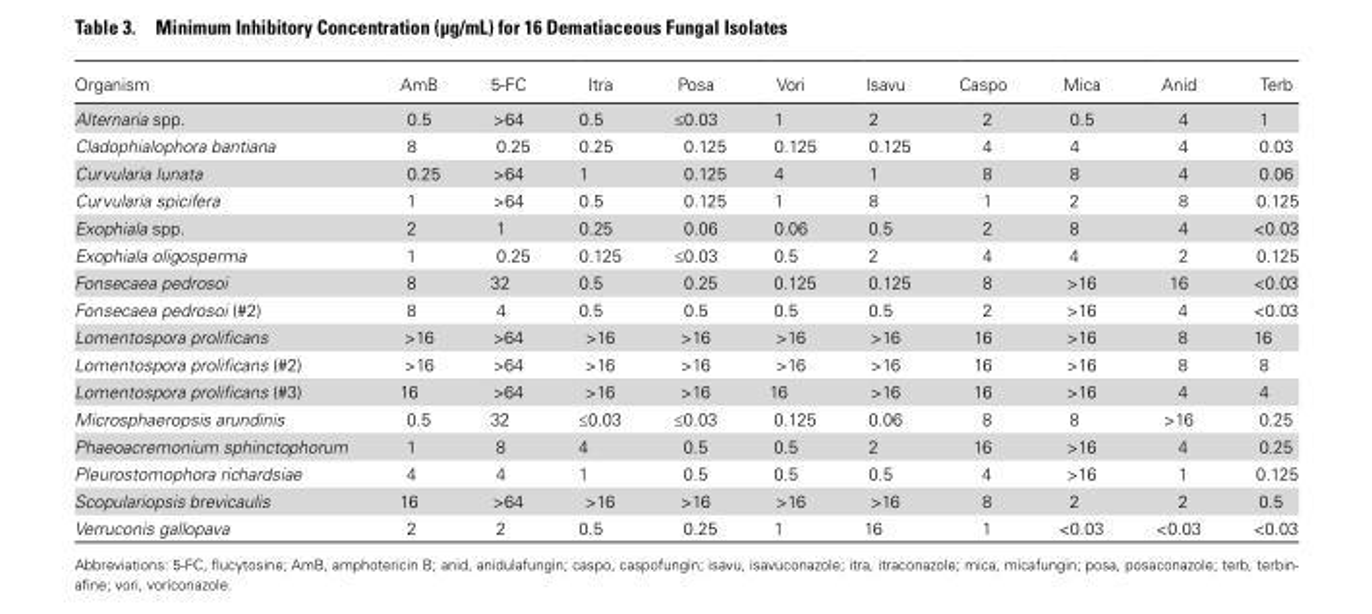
<table><thead><tr><td>Organism</td><td>AmB</td><td>5-FC</td><td>Itra</td><td>Posa</td><td>Vori</td><td>Isavu</td><td>Caspo</td><td>Mica</td><td>Anid</td><td>Terb</td></tr></thead><tbody><tr><td>Alternaria spp.</td><td>0.5</td><td>&gt;64</td><td>0.5</td><td>≤0.03</td><td>1</td><td>2</td><td>2</td><td>0.5</td><td>4</td><td>1</td></tr><tr><td>Cladophialophora bantiana</td><td>8</td><td>0.25</td><td>0.25</td><td>0.125</td><td>0.125</td><td>0.125</td><td>4</td><td>4</td><td>4</td><td>0.03</td></tr><tr><td>Curvularia lunata</td><td>0.25</td><td>&gt;64</td><td>1</td><td>0.125</td><td>4</td><td>1</td><td>8</td><td>8</td><td>4</td><td>0.06</td></tr><tr><td>Curvularia spicifera</td><td>1</td><td>&gt;64</td><td>0.5</td><td>0.125</td><td>1</td><td>8</td><td>1</td><td>2</td><td>8</td><td>0.125</td></tr><tr><td>Exophiala spp.</td><td>2</td><td>1</td><td>0.25</td><td>0.06</td><td>0.06</td><td>0.5</td><td>2</td><td>8</td><td>4</td><td>&lt;0.03</td></tr><tr><td>Exophiala oligosperma</td><td>1</td><td>0.25</td><td>0.125</td><td>≤0.03</td><td>0.5</td><td>2</td><td>4</td><td>4</td><td>2</td><td>0.125</td></tr><tr><td>Fonsecaea pedrosoi</td><td>8</td><td>32</td><td>0.5</td><td>0.25</td><td>0.125</td><td>0.125</td><td>8</td><td>&gt;16</td><td>16</td><td>&lt;0.03</td></tr><tr><td>Fonsecaea pedrosoi (#2)</td><td>8</td><td>4</td><td>0.5</td><td>0.5</td><td>0.5</td><td>0.5</td><td>2</td><td>&gt;16</td><td>4</td><td>&lt;0.03</td></tr><tr><td>Lomentospora prolificans</td><td>&gt;16</td><td>&gt;64</td><td>&gt;16</td><td>&gt;16</td><td>&gt;16</td><td>&gt;16</td><td>16</td><td>&gt;16</td><td>8</td><td>16</td></tr><tr><td>Lomentospora prolificans (#2)</td><td>&gt;16</td><td>&gt;64</td><td>&gt;16</td><td>&gt;16</td><td>&gt;16</td><td>&gt;16</td><td>16</td><td>&gt;16</td><td>8</td><td>8</td></tr><tr><td>Lomentospora prolificans (#3)</td><td>16</td><td>&gt;64</td><td>&gt;16</td><td>&gt;16</td><td>16</td><td>&gt;16</td><td>16</td><td>&gt;16</td><td>4</td><td>4</td></tr><tr><td>Microsphaeropsis arundinis</td><td>0.5</td><td>32</td><td>≤0.03</td><td>≤0.03</td><td>0.125</td><td>0.06</td><td>8</td><td>8</td><td>&gt;16</td><td>0.25</td></tr><tr><td>Phaeoacremonium sphinctophorum</td><td>1</td><td>8</td><td>4</td><td>0.5</td><td>0.5</td><td>2</td><td>16</td><td>&gt;16</td><td>4</td><td>0.25</td></tr><tr><td>Pleurostomophora richardsiae</td><td>4</td><td>4</td><td>1</td><td>0.5</td><td>0.5</td><td>0.5</td><td>4</td><td>&gt;16</td><td>1</td><td>0.125</td></tr><tr><td>Scopulariopsis brevicaulis</td><td>16</td><td>&gt;64</td><td>&gt;16</td><td>&gt;16</td><td>&gt;16</td><td>&gt;16</td><td>8</td><td>2</td><td>2</td><td>0.5</td></tr><tr><td>Verruconis gallopava</td><td>2</td><td>2</td><td>0.5</td><td>0.25</td><td>1</td><td>16</td><td>1</td><td>&lt;0.03</td><td>&lt;0.03</td><td>&lt;0.03</td></tr></tbody></table>